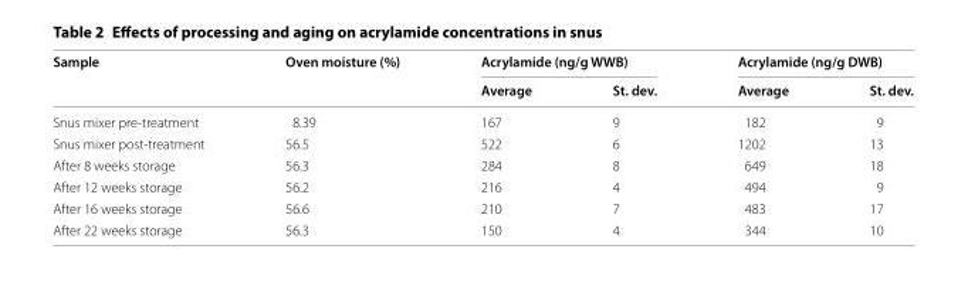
<table><thead><tr><td rowspan="2">Sample</td><td rowspan="2">Oven moisture (%)</td><td colspan="2">Acrylamide (ng/g WWB)</td><td colspan="2">Acrylamide (ng/g DWB)</td></tr><tr><td>Average</td><td>St. dev.</td><td>Average</td><td>St. dev.</td></tr></thead><tbody><tr><td>Snus mixer pre-treatment</td><td>8.39</td><td>167</td><td>9</td><td>182</td><td>9</td></tr><tr><td>Snus mixer post-treatment</td><td>56.5</td><td>522</td><td>6</td><td>1202</td><td>13</td></tr><tr><td>After 8 weeks storage</td><td>56.3</td><td>284</td><td>8</td><td>649</td><td>18</td></tr><tr><td>After 12 weeks storage</td><td>56.2</td><td>216</td><td>4</td><td>494</td><td>9</td></tr><tr><td>After 16 weeks storage</td><td>56.6</td><td>210</td><td>7</td><td>483</td><td>17</td></tr><tr><td>After 22 weeks storage</td><td>56.3</td><td>150</td><td>4</td><td>344</td><td>10</td></tr></tbody></table>